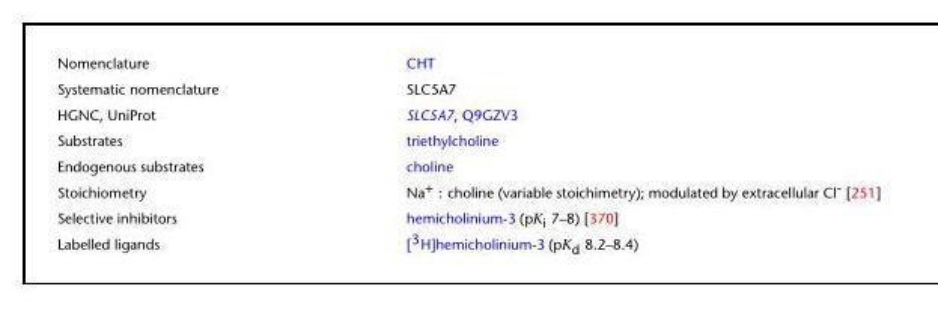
<table><tbody><tr><td>Nomenclature</td><td>CHT</td></tr><tr><td>Systematic nomenclature</td><td>SLC5A7</td></tr><tr><td>HGNC, UniProt</td><td>SLC5A7, Q9GZV3</td></tr><tr><td>Substrates</td><td>triethylcholine</td></tr><tr><td>Endogenous substrates</td><td>choline</td></tr><tr><td>Stoichiometry</td><td>Na<sup>+</sup> : choline (variable stoichimetry); modulated by extracellular Cl<sup>-</sup> [251]</td></tr><tr><td>Selective inhibitors</td><td>hemicholinium-3 (pK<sub>i</sub> 7–8) [370]</td></tr><tr><td>Labelled ligands</td><td>[<sup>3</sup>H]hemicholinium-3 (pK<sub>d</sub> 8.2–8.4)</td></tr></tbody></table>